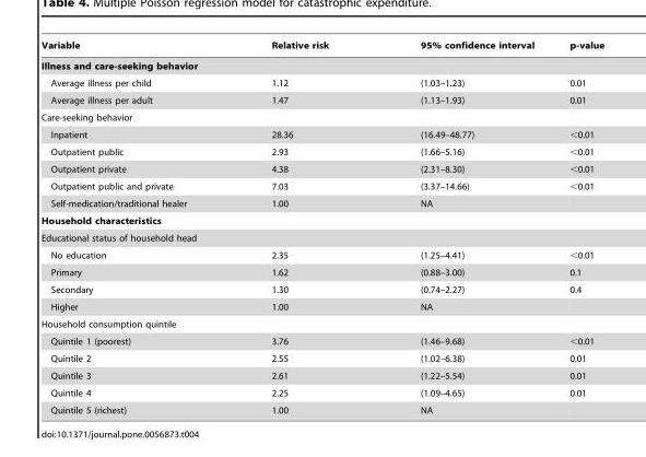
<table><thead><tr><td>Variable</td><td>Relative risk</td><td>95% confidence interval</td><td>p-value</td></tr></thead><tbody><tr><td colspan="4">Illness and care-seeking behavior</td></tr><tr><td>Average illness per child</td><td>1.12</td><td>(1.03–1.23)</td><td>0.01</td></tr><tr><td>Average illness per adult</td><td>1.47</td><td>(1.13–1.93)</td><td>0.01</td></tr><tr><td colspan="4">Care-seeking behavior</td></tr><tr><td>Inpatient</td><td>28.36</td><td>(16.49–48.77)</td><td>&lt;0.01</td></tr><tr><td>Outpatient public</td><td>2.93</td><td>(1.66–5.16)</td><td>&lt;0.01</td></tr><tr><td>Outpatient private</td><td>4.38</td><td>(2.31–8.30)</td><td>&lt;0.01</td></tr><tr><td>Outpatient public and private</td><td>7.03</td><td>(3.37–14.66)</td><td>&lt;0.01</td></tr><tr><td>Self-medication/traditional healer</td><td>1.00</td><td>NA</td><td></td></tr><tr><td colspan="4">Household characteristics</td></tr><tr><td colspan="4">Educational status of household head</td></tr><tr><td>No education</td><td>2.35</td><td>(1.25–4.41)</td><td>&lt;0.01</td></tr><tr><td>Primary</td><td>1.62</td><td>(0.88–3.00)</td><td>0.1</td></tr><tr><td>Secondary</td><td>1.30</td><td>(0.74–2.27)</td><td>0.4</td></tr><tr><td>Higher</td><td>1.00</td><td>NA</td><td></td></tr><tr><td colspan="4">Household consumption quintile</td></tr><tr><td>Quintile 1 (poorest)</td><td>3.76</td><td>(1.46–9.68)</td><td>&lt;0.01</td></tr><tr><td>Quintile 2</td><td>2.55</td><td>(1.02–6.38)</td><td>0.01</td></tr><tr><td>Quintile 3</td><td>2.61</td><td>(1.22–5.54)</td><td>0.01</td></tr><tr><td>Quintile 4</td><td>2.25</td><td>(1.09–4.65)</td><td>0.01</td></tr><tr><td>Quintile 5 (richest)</td><td>1.00</td><td>NA</td><td></td></tr></tbody></table>